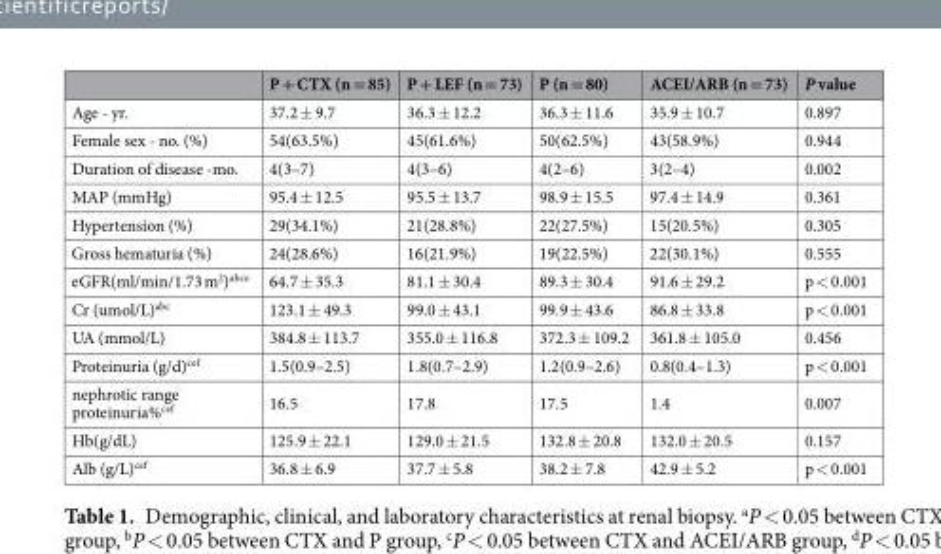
<table><thead><tr><td></td><td>P + CTX (n = 85)</td><td>P + LEF (n = 73)</td><td>P (n = 80)</td><td>ACEI/ARB (n = 73)</td><td>P value</td></tr></thead><tbody><tr><td>Age - yr.</td><td>37.2 ± 9.7</td><td>36.3 ± 12.2</td><td>36.3 ± 11.6</td><td>35.9 ± 10.7</td><td>0.897</td></tr><tr><td>Female sex - no. (%)</td><td>54(63.5%)</td><td>45(61.6%)</td><td>50(62.5%)</td><td>43(58.9%)</td><td>0.944</td></tr><tr><td>Duration of disease -mo.</td><td>4(3–7)</td><td>4(3–6)</td><td>4(2–6)</td><td>3(2–4)</td><td>0.002</td></tr><tr><td>MAP (mmHg)</td><td>95.4 ± 12.5</td><td>95.5 ± 13.7</td><td>98.9 ± 15.5</td><td>97.4 ± 14.9</td><td>0.361</td></tr><tr><td>Hypertension (%)</td><td>29(34.1%)</td><td>21(28.8%)</td><td>22(27.5%)</td><td>15(20.5%)</td><td>0.305</td></tr><tr><td>Gross hematuria (%)</td><td>24(28.6%)</td><td>16(21.9%)</td><td>19(22.5%)</td><td>22(30.1%)</td><td>0.555</td></tr><tr><td>eGFR(ml/min/1.73 m<sup>2</sup>)<sup>abce</sup></td><td>64.7 ± 35.3</td><td>81.1 ± 30.4</td><td>89.3 ± 30.4</td><td>91.6 ± 29.2</td><td>p &lt; 0.001</td></tr><tr><td>Cr (umol/L)<sup>abc</sup></td><td>123.1 ± 49.3</td><td>99.0 ± 43.1</td><td>99.9 ± 43.6</td><td>86.8 ± 33.8</td><td>p &lt; 0.001</td></tr><tr><td>UA (mmol/L)</td><td>384.8 ± 113.7</td><td>355.0 ± 116.8</td><td>372.3 ± 109.2</td><td>361.8 ± 105.0</td><td>0.456</td></tr><tr><td>Proteinuria (g/d)<sup>cef</sup></td><td>1.5(0.9–2.5)</td><td>1.8(0.7–2.9)</td><td>1.2(0.9–2.6)</td><td>0.8(0.4–1.3)</td><td>p &lt; 0.001</td></tr><tr><td>nephrotic range proteinuria%<sup>cef</sup></td><td>16.5</td><td>17.8</td><td>17.5</td><td>1.4</td><td>0.007</td></tr><tr><td>Hb(g/dL)</td><td>125.9 ± 22.1</td><td>129.0 ± 21.5</td><td>132.8 ± 20.8</td><td>132.0 ± 20.5</td><td>0.157</td></tr><tr><td>Alb (g/L)<sup>cef</sup></td><td>36.8 ± 6.9</td><td>37.7 ± 5.8</td><td>38.2 ± 7.8</td><td>42.9 ± 5.2</td><td>p &lt; 0.001</td></tr></tbody></table>